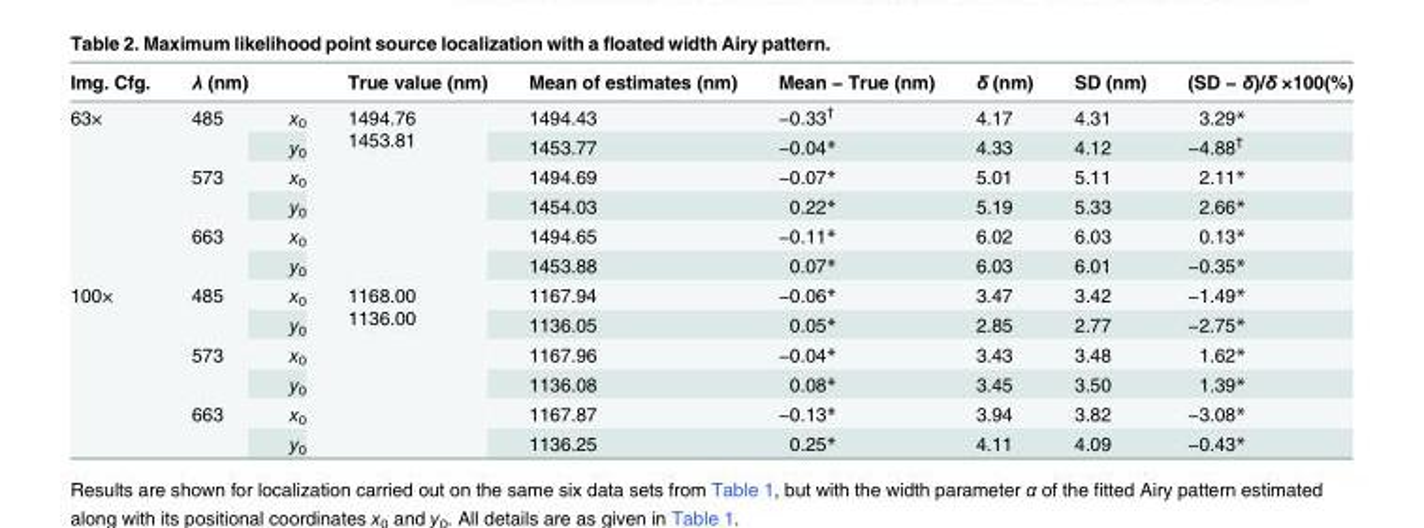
<table><thead><tr><td>Img. Cfg.</td><td>λ (nm)</td><td></td><td>True value (nm)</td><td>Mean of estimates (nm)</td><td>Mean − True (nm)</td><td>δ (nm)</td><td>SD (nm)</td><td>(SD − δ)/δ ×100(%)</td></tr></thead><tbody><tr><td rowspan="6">63×</td><td rowspan="2">485</td><td>x<sub>0</sub></td><td rowspan="6">1494.76 1453.81</td><td>1494.43</td><td>−0.33<sup>†</sup></td><td>4.17</td><td>4.31</td><td>3.29*</td></tr><tr><td>y<sub>0</sub></td><td>1453.77</td><td>−0.04*</td><td>4.33</td><td>4.12</td><td>−4.88<sup>†</sup></td></tr><tr><td rowspan="2">573</td><td>x<sub>0</sub></td><td>1494.69</td><td>−0.07*</td><td>5.01</td><td>5.11</td><td>2.11*</td></tr><tr><td>y<sub>0</sub></td><td>1454.03</td><td>0.22*</td><td>5.19</td><td>5.33</td><td>2.66*</td></tr><tr><td rowspan="2">663</td><td>x<sub>0</sub></td><td>1494.65</td><td>−0.11*</td><td>6.02</td><td>6.03</td><td>0.13*</td></tr><tr><td>y<sub>0</sub></td><td>1453.88</td><td>0.07*</td><td>6.03</td><td>6.01</td><td>−0.35*</td></tr><tr><td rowspan="6">100×</td><td rowspan="2">485</td><td>x<sub>0</sub></td><td rowspan="6">1168.00 1136.00</td><td>1167.94</td><td>−0.06*</td><td>3.47</td><td>3.42</td><td>−1.49*</td></tr><tr><td>y<sub>0</sub></td><td>1136.05</td><td>0.05*</td><td>2.85</td><td>2.77</td><td>−2.75*</td></tr><tr><td rowspan="2">573</td><td>x<sub>0</sub></td><td>1167.96</td><td>−0.04*</td><td>3.43</td><td>3.48</td><td>1.62*</td></tr><tr><td>y<sub>0</sub></td><td>1136.08</td><td>0.08*</td><td>3.45</td><td>3.50</td><td>1.39*</td></tr><tr><td rowspan="2">663</td><td>x<sub>0</sub></td><td>1167.87</td><td>−0.13*</td><td>3.94</td><td>3.82</td><td>−3.08*</td></tr><tr><td>y<sub>0</sub></td><td>1136.25</td><td>0.25*</td><td>4.11</td><td>4.09</td><td>−0.43*</td></tr></tbody></table>